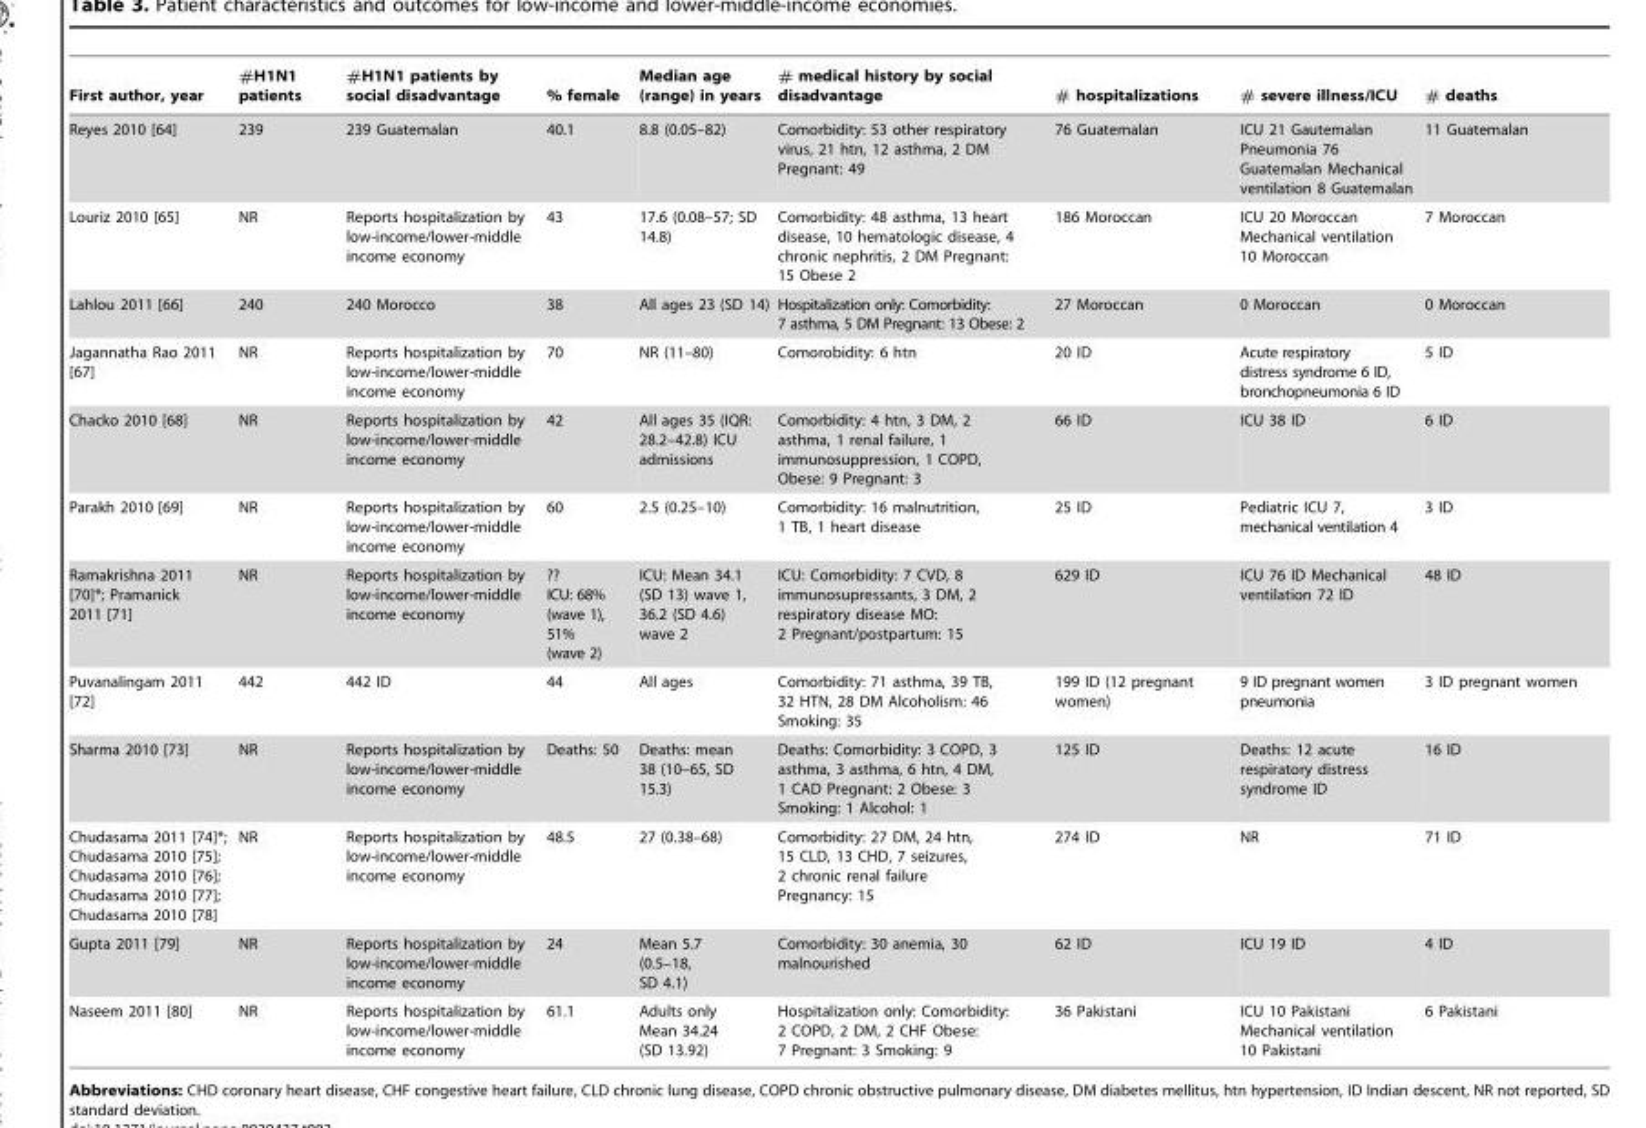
<table><thead><tr><td>First author, year</td><td>#H1N1 patients</td><td>#H1N1 patients by social disadvantage</td><td>% female</td><td>Median age (range) in years</td><td># medical history by social disadvantage</td><td># hospitalizations</td><td># severe illness/ICU</td><td># deaths</td></tr></thead><tbody><tr><td>Reyes 2010 [64]</td><td>239</td><td>239 Guatemalan</td><td>40.1</td><td>8.8 (0.05–82)</td><td>Comorbidity: 53 other respiratory virus, 21 htn, 12 asthma, 2 DM Pregnant: 49</td><td>76 Guatemalan</td><td>ICU 21 Gautemalan Pneumonia 76 Guatemalan Mechanical ventilation 8 Guatemalan</td><td>11 Guatemalan</td></tr><tr><td>Louriz 2010 [65]</td><td>NR</td><td>Reports hospitalization by low-income/lower-middle income economy</td><td>43</td><td>17.6 (0.08–57; SD 14.8)</td><td>Comorbidity: 48 asthma, 13 heart disease, 10 hematologic disease, 4 chronic nephritis, 2 DM Pregnant: 15 Obese 2</td><td>186 Moroccan</td><td>ICU 20 Moroccan Mechanical ventilation 10 Moroccan</td><td>7 Moroccan</td></tr><tr><td>Lahlou 2011 [66]</td><td>240</td><td>240 Morocco</td><td>38</td><td>All ages 23 (SD 14)</td><td>Hospitalization only: Comorbidity: 7 asthma, 5 DM Pregnant: 13 Obese: 2</td><td>27 Moroccan</td><td>0 Moroccan</td><td>0 Moroccan</td></tr><tr><td>Jagannatha Rao 2011 [67]</td><td>NR</td><td>Reports hospitalization by low-income/lower-middle income economy</td><td>70</td><td>NR (11–80)</td><td>Comorobidity: 6 htn</td><td>20 ID</td><td>Acute respiratory distress syndrome 6 ID, bronchopneumonia 6 ID</td><td>5 ID</td></tr><tr><td>Chacko 2010 [68]</td><td>NR</td><td>Reports hospitalization by low-income/lower-middle income economy</td><td>42</td><td>All ages 35 (IQR: 28.2–42.8) ICU admissions</td><td>Comorbidity: 4 htn, 3 DM, 2 asthma, 1 renal failure, 1 immunosuppression, 1 COPD, Obese: 9 Pregnant: 3</td><td>66 ID</td><td>ICU 38 ID</td><td>6 ID</td></tr><tr><td>Parakh 2010 [69]</td><td>NR</td><td>Reports hospitalization by low-income/lower-middle income economy</td><td>60</td><td>2.5 (0.25–10)</td><td>Comorbidity: 16 malnutrition, 1 TB, 1 heart disease</td><td>25 ID</td><td>Pediatric ICU 7, mechanical ventilation 4</td><td>3 ID</td></tr><tr><td>Ramakrishna 2011 [70]*; Pramanick 2011 [71]</td><td>NR</td><td>Reports hospitalization by low-income/lower-middle income economy</td><td>?? ICU: 68% (wave 1), 51% (wave 2)</td><td>ICU: Mean 34.1 (SD 13) wave 1, 36.2 (SD 4.6) wave 2</td><td>ICU: Comorbidity: 7 CVD, 8 immunosupressants, 3 DM, 2 respiratory disease MO: 2 Pregnant/postpartum: 15</td><td>629 ID</td><td>ICU 76 ID Mechanical ventilation 72 ID</td><td>48 ID</td></tr><tr><td>Puvanalingam 2011 [72]</td><td>442</td><td>442 ID</td><td>44</td><td>All ages</td><td>Comorbidity: 71 asthma, 39 TB, 32 HTN, 28 DM Alcoholism: 46 Smoking: 35</td><td>199 ID (12 pregnant women)</td><td>9 ID pregnant women pneumonia</td><td>3 ID pregnant women</td></tr><tr><td>Sharma 2010 [73]</td><td>NR</td><td>Reports hospitalization by low-income/lower-middle income economy</td><td>Deaths: 50</td><td>Deaths: mean 38 (10–65, SD 15.3)</td><td>Deaths: Comorbidity: 3 COPD, 3 asthma, 3 asthma, 6 htn, 4 DM, 1 CAD Pregnant: 2 Obese: 3 Smoking: 1 Alcohol: 1</td><td>125 ID</td><td>Deaths: 12 acute respiratory distress syndrome ID</td><td>16 ID</td></tr><tr><td>Chudasama 2011 [74]*; Chudasama 2010 [75]; Chudasama 2010 [76]; Chudasama 2010 [77]; Chudasama 2010 [78]</td><td>NR</td><td>Reports hospitalization by low-income/lower-middle income economy</td><td>48.5</td><td>27 (0.38–68)</td><td>Comorbidity: 27 DM, 24 htn, 15 CLD, 13 CHD, 7 seizures, 2 chronic renal failure Pregnancy: 15</td><td>274 ID</td><td>NR</td><td>71 ID</td></tr><tr><td>Gupta 2011 [79]</td><td>NR</td><td>Reports hospitalization by low-income/lower-middle income economy</td><td>24</td><td>Mean 5.7 (0.5–18, SD 4.1)</td><td>Comorbidity: 30 anemia, 30 malnourished</td><td>62 ID</td><td>ICU 19 ID</td><td>4 ID</td></tr><tr><td>Naseem 2011 [80]</td><td>NR</td><td>Reports hospitalization by low-income/lower-middle income economy</td><td>61.1</td><td>Adults only Mean 34.24 (SD 13.92)</td><td>Hospitalization only: Comorbidity: 2 COPD, 2 DM, 2 CHF Obese: 7 Pregnant: 3 Smoking: 9</td><td>36 Pakistani</td><td>ICU 10 Pakistani Mechanical ventilation 10 Pakistani</td><td>6 Pakistani</td></tr></tbody></table>